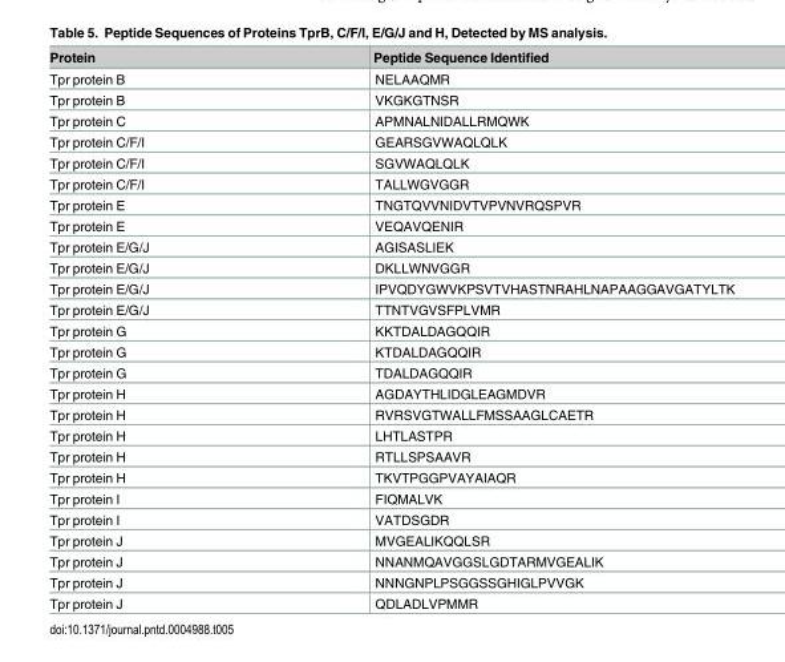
<table><thead><tr><td>Protein</td><td>Peptide Sequence Identified</td></tr></thead><tbody><tr><td>Tpr protein B</td><td>NELAAQMR</td></tr><tr><td>Tpr protein B</td><td>VKGKGTNSR</td></tr><tr><td>Tpr protein C</td><td>APMNALNIDALLRMQWK</td></tr><tr><td>Tpr protein C/F/I</td><td>GEARSGVWAQLQLK</td></tr><tr><td>Tpr protein C/F/I</td><td>SGVWAQLQLK</td></tr><tr><td>Tpr protein C/F/I</td><td>TALLWGVGGR</td></tr><tr><td>Tpr protein E</td><td>TNGTQVVNIDVTVPVNVRQSPVR</td></tr><tr><td>Tpr protein E</td><td>VEQAVQENIR</td></tr><tr><td>Tpr protein E/G/J</td><td>AGISASLIEK</td></tr><tr><td>Tpr protein E/G/J</td><td>DKLLWNVGGR</td></tr><tr><td>Tpr protein E/G/J</td><td>IPVQDYGWVKPSVTVHASTNRAHLNAPAAGGAVGATYLTK</td></tr><tr><td>Tpr protein E/G/J</td><td>TTNTVGVSFPLVMR</td></tr><tr><td>Tpr protein G</td><td>KKTDALDAGQQIR</td></tr><tr><td>Tpr protein G</td><td>KTDALDAGQQIR</td></tr><tr><td>Tpr protein G</td><td>TDALDAGQQIR</td></tr><tr><td>Tpr protein H</td><td>AGDAYTHLIDGLEAGMDVR</td></tr><tr><td>Tpr protein H</td><td>RVRSVGTWALLFMSSAAGLCAETR</td></tr><tr><td>Tpr protein H</td><td>LHTLASTPR</td></tr><tr><td>Tpr protein H</td><td>RTLLSPSAAVR</td></tr><tr><td>Tpr protein H</td><td>TKVTPGGPVAYAIAQR</td></tr><tr><td>Tpr protein I</td><td>FIQMALVK</td></tr><tr><td>Tpr protein I</td><td>VATDSGDR</td></tr><tr><td>Tpr protein J</td><td>MVGEALIKQQLSR</td></tr><tr><td>Tpr protein J</td><td>NNANMQAVGGSLGDTARMVGEALIK</td></tr><tr><td>Tpr protein J</td><td>NNNGNPLPSGGSSGHIGLPVVGK</td></tr><tr><td>Tpr protein J</td><td>QDLADLVPMMR</td></tr></tbody></table>